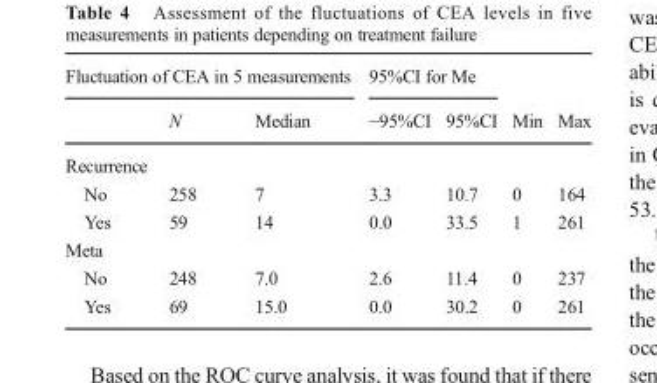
<table><thead><tr><td colspan="3">Fluctuation of CEA in 5 measurements</td><td colspan="2">95%CI for Me</td><td rowspan="2">Min</td><td rowspan="2">Max</td></tr><tr><td></td><td>N</td><td>Median</td><td>−95%CI</td><td>95%CI</td></tr></thead><tbody><tr><td colspan="7">Recurrence</td></tr><tr><td>No</td><td>258</td><td>7</td><td>3.3</td><td>10.7</td><td>0</td><td>164</td></tr><tr><td>Yes</td><td>59</td><td>14</td><td>0.0</td><td>33.5</td><td>1</td><td>261</td></tr><tr><td colspan="7">Meta</td></tr><tr><td>No</td><td>248</td><td>7.0</td><td>2.6</td><td>11.4</td><td>0</td><td>237</td></tr><tr><td>Yes</td><td>69</td><td>15.0</td><td>0.0</td><td>30.2</td><td>0</td><td>261</td></tr></tbody></table>